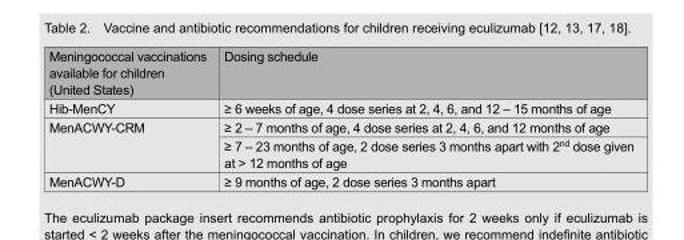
<table><thead><tr><td>Meningococcal vaccinations available for children (United States)</td><td>Dosing schedule</td></tr></thead><tbody><tr><td>Hib-MenCY</td><td>≥ 6 weeks of age, 4 dose series at 2, 4, 6, and 12 – 15 months of age</td></tr><tr><td rowspan="2">MenACWY-CRM</td><td>≥ 2 – 7 months of age, 4 dose series at 2, 4, 6, and 12 months of age</td></tr><tr><td>≥ 7 – 23 months of age, 2 dose series 3 months apart with 2<sup>nd</sup> dose given at &gt; 12 months of age</td></tr><tr><td>MenACWY-D</td><td>≥ 9 months of age, 2 dose series 3 months apart</td></tr></tbody></table>